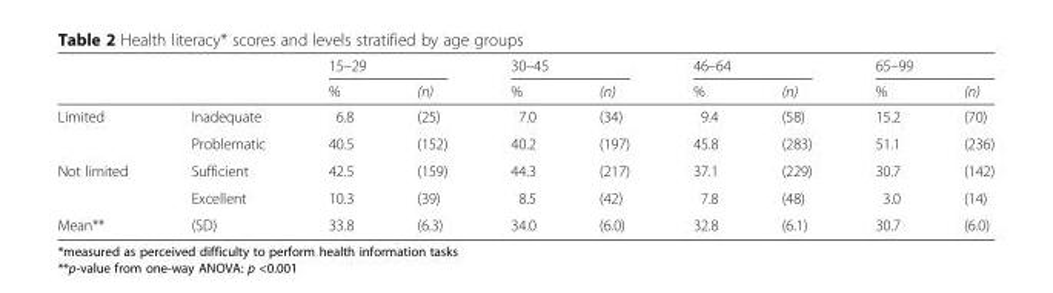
<table><thead><tr><td rowspan="2"></td><td rowspan="2"></td><td colspan="2">15–29</td><td colspan="2">30–45</td><td colspan="2">46–64</td><td colspan="2">65–99</td></tr><tr><td>%</td><td>(n)</td><td>%</td><td>(n)</td><td>%</td><td>(n)</td><td>%</td><td>(n)</td></tr></thead><tbody><tr><td rowspan="2">Limited</td><td>Inadequate</td><td>6.8</td><td>(25)</td><td>7.0</td><td>(34)</td><td>9.4</td><td>(58)</td><td>15.2</td><td>(70)</td></tr><tr><td>Problematic</td><td>40.5</td><td>(152)</td><td>40.2</td><td>(197)</td><td>45.8</td><td>(283)</td><td>51.1</td><td>(236)</td></tr><tr><td rowspan="2">Not limited</td><td>Sufficient</td><td>42.5</td><td>(159)</td><td>44.3</td><td>(217)</td><td>37.1</td><td>(229)</td><td>30.7</td><td>(142)</td></tr><tr><td>Excellent</td><td>10.3</td><td>(39)</td><td>8.5</td><td>(42)</td><td>7.8</td><td>(48)</td><td>3.0</td><td>(14)</td></tr><tr><td>Mean**</td><td>(SD)</td><td>33.8</td><td>(6.3)</td><td>34.0</td><td>(6.0)</td><td>32.8</td><td>(6.1)</td><td>30.7</td><td>(6.0)</td></tr></tbody></table>